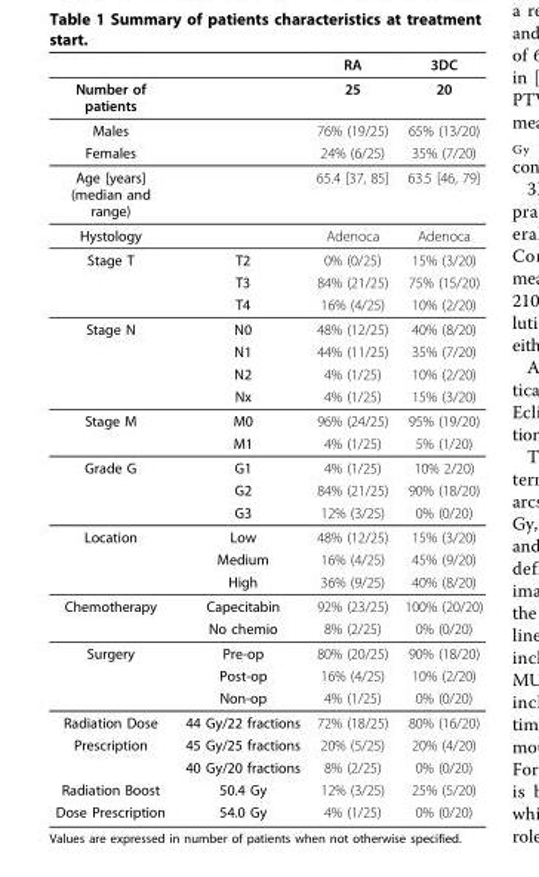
<table><thead><tr><td></td><td></td><td>RA</td><td>3DC</td></tr></thead><tbody><tr><td>Number of patients</td><td></td><td>25</td><td>20</td></tr><tr><td>Males</td><td></td><td>76% (19/25)</td><td>65% (13/20)</td></tr><tr><td>Females</td><td></td><td>24% (6/25)</td><td>35% (7/20)</td></tr><tr><td>Age [years] (median and range)</td><td></td><td>65.4 [37, 85]</td><td>63.5 [46, 79]</td></tr><tr><td>Hystology</td><td></td><td>Adenoca</td><td>Adenoca</td></tr><tr><td rowspan="3">Stage T</td><td>T2</td><td>0% (0/25)</td><td>15% (3/20)</td></tr><tr><td>T3</td><td>84% (21/25)</td><td>75% (15/20)</td></tr><tr><td>T4</td><td>16% (4/25)</td><td>10% (2/20)</td></tr><tr><td rowspan="4">Stage N</td><td>N0</td><td>48% (12/25)</td><td>40% (8/20)</td></tr><tr><td>N1</td><td>44% (11/25)</td><td>35% (7/20)</td></tr><tr><td>N2</td><td>4% (1/25)</td><td>10% (2/20)</td></tr><tr><td>Nx</td><td>4% (1/25)</td><td>15% (3/20)</td></tr><tr><td rowspan="2">Stage M</td><td>M0</td><td>96% (24/25)</td><td>95% (19/20)</td></tr><tr><td>M1</td><td>4% (1/25)</td><td>5% (1/20)</td></tr><tr><td rowspan="3">Grade G</td><td>G1</td><td>4% (1/25)</td><td>10% 2/20)</td></tr><tr><td>G2</td><td>84% (21/25)</td><td>90% (18/20)</td></tr><tr><td>G3</td><td>12% (3/25)</td><td>0% (0/20)</td></tr><tr><td rowspan="3">Location</td><td>Low</td><td>48% (12/25)</td><td>15% (3/20)</td></tr><tr><td>Medium</td><td>16% (4/25)</td><td>45% (9/20)</td></tr><tr><td>High</td><td>36% (9/25)</td><td>40% (8/20)</td></tr><tr><td rowspan="2">Chemotherapy</td><td>Capecitabin</td><td>92% (23/25)</td><td>100% (20/20)</td></tr><tr><td>No chemio</td><td>8% (2/25)</td><td>0% (0/20)</td></tr><tr><td rowspan="3">Surgery</td><td>Pre-op</td><td>80% (20/25)</td><td>90% (18/20)</td></tr><tr><td>Post-op</td><td>16% (4/25)</td><td>10% (2/20)</td></tr><tr><td>Non-op</td><td>4% (1/25)</td><td>0% (0/20)</td></tr><tr><td rowspan="3">Radiation Dose Prescription</td><td>44 Gy/22 fractions</td><td>72% (18/25)</td><td>80% (16/20)</td></tr><tr><td>45 Gy/25 fractions</td><td>20% (5/25)</td><td>20% (4/20)</td></tr><tr><td>40 Gy/20 fractions</td><td>8% (2/25)</td><td>0% (0/20)</td></tr><tr><td>Radiation Boost</td><td>50.4 Gy</td><td>12% (3/25)</td><td>25% (5/20)</td></tr><tr><td>Dose Prescription</td><td>54.0 Gy</td><td>4% (1/25)</td><td>0% (0/20)</td></tr></tbody></table>